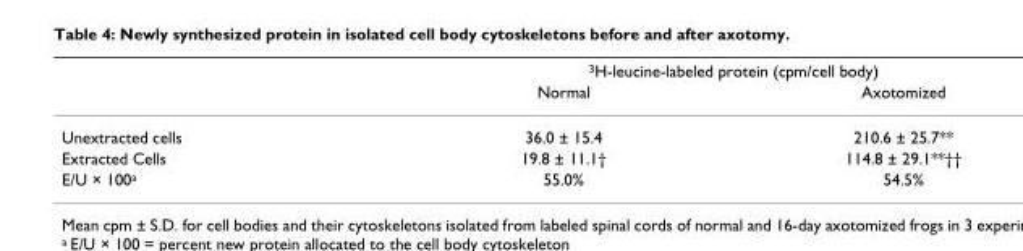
<table><thead><tr><td rowspan="2"></td><td colspan="2">3H-leucine-labeled protein (cpm/cell body)</td></tr><tr><td>Normal</td><td>Axotomized</td></tr></thead><tbody><tr><td>Unextracted cells</td><td>36.0 ± 15.4</td><td>210.6 ± 25.7**</td></tr><tr><td>Extracted Cells</td><td>19.8 ± 11.1†</td><td>114.8 ± 29.1**††</td></tr><tr><td>E/U × 100a</td><td>55.0%</td><td>54.5%</td></tr></tbody></table>